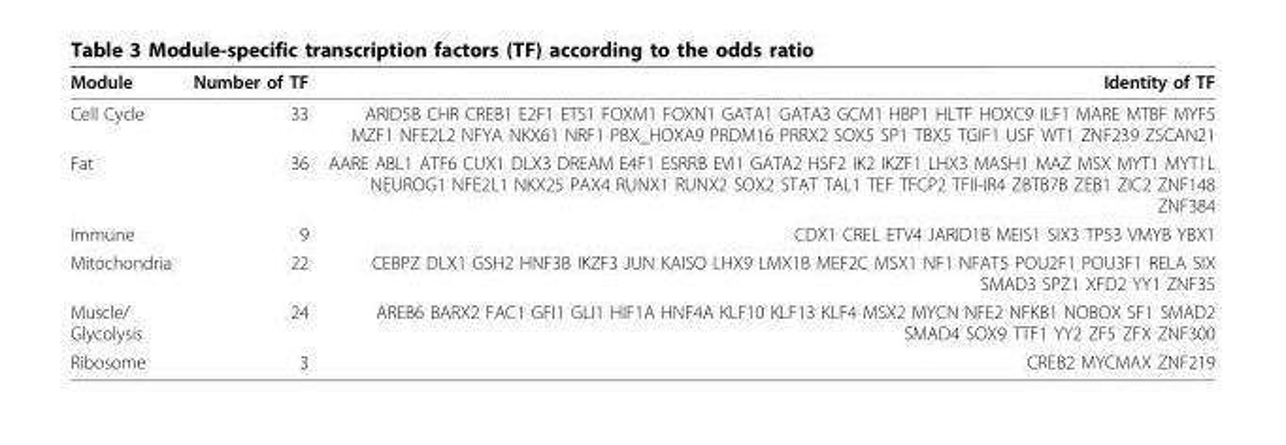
<table><thead><tr><td>Module</td><td>Number of TF</td><td>Identity of TF</td></tr></thead><tbody><tr><td>Cell Cycle</td><td>33</td><td>ARID5B CHR CREB1 E2F1 ETS1 FOXM1 FOXN1 GATA1 GATA3 GCM1 HBP1 HLTF HOXC9 ILF1 MARE MTBF MYF5 MZF1 NFE2L2 NFYA NKX61 NRF1 PBX_HOXA9 PRDM16 PRRX2 SOX5 SP1 TBX5 TGIF1 USF WT1 ZNF239 ZSCAN21</td></tr><tr><td>Fat</td><td>36</td><td>AARE ABL1 ATF6 CUX1 DLX3 DREAM E4F1 ESRRB EVI1 GATA2 HSF2 IK2 IKZF1 LHX3 MASH1 MAZ MSX MYT1 MYT1L NEUROG1 NFE2L1 NKX25 PAX4 RUNX1 RUNX2 SOX2 STAT TAL1 TEF TFCP2 TFII-IR4 ZBTB7B ZEB1 ZIC2 ZNF148 ZNF384</td></tr><tr><td>Immune</td><td>9</td><td>CDX1 CREL ETV4 JARID1B MEIS1 SIX3 TP53 VMYB YBX1</td></tr><tr><td>Mitochondria</td><td>22</td><td>CEBPZ DLX1 GSH2 HNF3B IKZF3 JUN KAISO LHX9 LMX1B MEF2C MSX1 NF1 NFAT5 POU2F1 POU3F1 RELA SIX SMAD3 SPZ1 XFD2 YY1 ZNF35</td></tr><tr><td>Muscle/ Glycolysis</td><td>24</td><td>AREB6 BARX2 FAC1 GFI1 GLI1 HIF1A HNF4A KLF10 KLF13 KLF4 MSX2 MYCN NFE2 NFKB1 NOBOX SF1 SMAD2 SMAD4 SOX9 TTF1 YY2 ZF5 ZFX ZNF300</td></tr><tr><td>Ribosome</td><td>3</td><td>CREB2 MYCMAX ZNF219</td></tr></tbody></table>